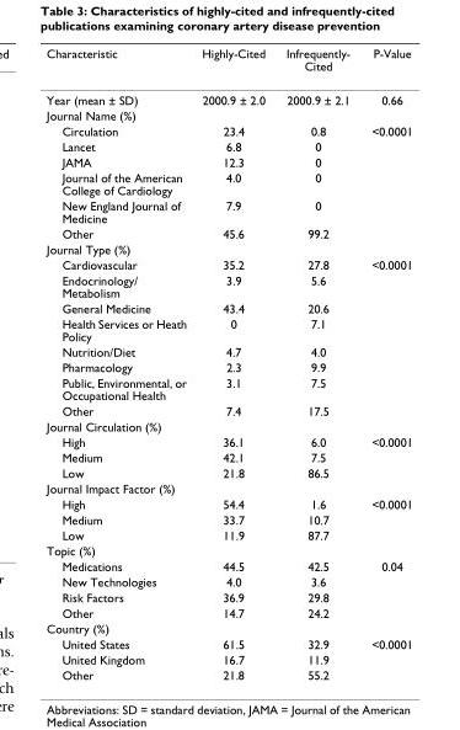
<table><thead><tr><td>Characteristic</td><td>Highly-Cited</td><td>Infrequently- Cited</td><td>P-Value</td></tr></thead><tbody><tr><td>Year (mean ± SD)</td><td>2000.9 ± 2.0</td><td>2000.9 ± 2.1</td><td>0.66</td></tr><tr><td colspan="4">Journal Name (%)</td></tr><tr><td>Circulation</td><td>23.4</td><td>0.8</td><td>&lt;0.0001</td></tr><tr><td>Lancet</td><td>6.8</td><td>0</td><td></td></tr><tr><td>JAMA</td><td>12.3</td><td>0</td><td></td></tr><tr><td>Journal of the American College of Cardiology</td><td>4.0</td><td>0</td><td></td></tr><tr><td>New England Journal of Medicine</td><td>7.9</td><td>0</td><td></td></tr><tr><td>Other</td><td>45.6</td><td>99.2</td><td></td></tr><tr><td colspan="4">Journal Type (%)</td></tr><tr><td>Cardiovascular</td><td>35.2</td><td>27.8</td><td>&lt;0.0001</td></tr><tr><td>Endocrinology/ Metabolism</td><td>3.9</td><td>5.6</td><td></td></tr><tr><td>General Medicine</td><td>43.4</td><td>20.6</td><td></td></tr><tr><td>Health Services or Heath Policy</td><td>0</td><td>7.1</td><td></td></tr><tr><td>Nutrition/Diet</td><td>4.7</td><td>4.0</td><td></td></tr><tr><td>Pharmacology</td><td>2.3</td><td>9.9</td><td></td></tr><tr><td>Public, Environmental, or Occupational Health</td><td>3.1</td><td>7.5</td><td></td></tr><tr><td>Other</td><td>7.4</td><td>17.5</td><td></td></tr><tr><td colspan="4">Journal Circulation (%)</td></tr><tr><td>High</td><td>36.1</td><td>6.0</td><td>&lt;0.0001</td></tr><tr><td>Medium</td><td>42.1</td><td>7.5</td><td></td></tr><tr><td>Low</td><td>21.8</td><td>86.5</td><td></td></tr><tr><td colspan="4">Journal Impact Factor (%)</td></tr><tr><td>High</td><td>54.4</td><td>1.6</td><td>&lt;0.0001</td></tr><tr><td>Medium</td><td>33.7</td><td>10.7</td><td></td></tr><tr><td>Low</td><td>11.9</td><td>87.7</td><td></td></tr><tr><td colspan="4">Topic (%)</td></tr><tr><td>Medications</td><td>44.5</td><td>42.5</td><td>0.04</td></tr><tr><td>New Technologies</td><td>4.0</td><td>3.6</td><td></td></tr><tr><td>Risk Factors</td><td>36.9</td><td>29.8</td><td></td></tr><tr><td>Other</td><td>14.7</td><td>24.2</td><td></td></tr><tr><td colspan="4">Country (%)</td></tr><tr><td>United States</td><td>61.5</td><td>32.9</td><td>&lt;0.0001</td></tr><tr><td>United Kingdom</td><td>16.7</td><td>11.9</td><td></td></tr><tr><td>Other</td><td>21.8</td><td>55.2</td><td></td></tr></tbody></table>